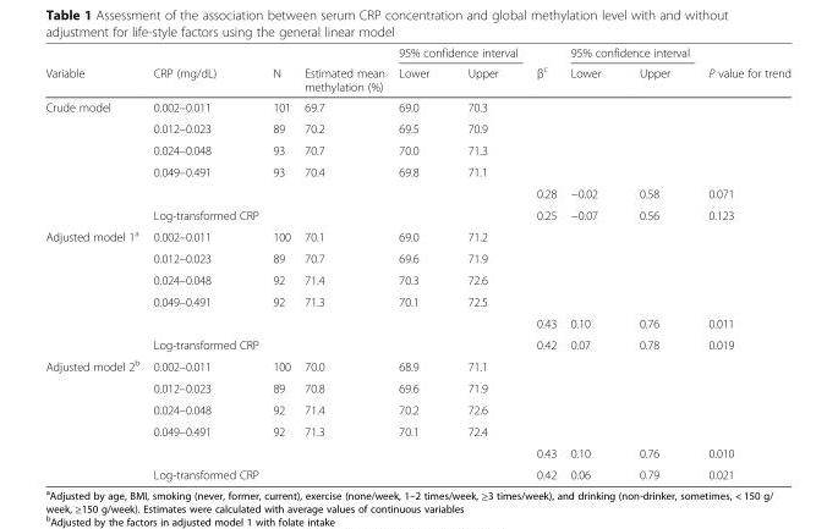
<table><thead><tr><td rowspan="2">Variable</td><td rowspan="2">CRP (mg/dL)</td><td rowspan="2">N</td><td rowspan="2">Estimated mean methylation (%)</td><td colspan="2">95% confidence interval</td><td rowspan="2">β<sup>c</sup></td><td colspan="2">95% confidence interval</td><td rowspan="2">P value for trend</td></tr><tr><td>Lower</td><td>Upper</td><td>Lower</td><td>Upper</td></tr></thead><tbody><tr><td rowspan="6">Crude model</td><td>0.002–0.011</td><td>101</td><td>69.7</td><td>69.0</td><td>70.3</td><td></td><td></td><td></td><td></td></tr><tr><td>0.012–0.023</td><td>89</td><td>70.2</td><td>69.5</td><td>70.9</td><td></td><td></td><td></td><td></td></tr><tr><td>0.024–0.048</td><td>93</td><td>70.7</td><td>70.0</td><td>71.3</td><td></td><td></td><td></td><td></td></tr><tr><td>0.049–0.491</td><td>93</td><td>70.4</td><td>69.8</td><td>71.1</td><td></td><td></td><td></td><td></td></tr><tr><td></td><td></td><td></td><td></td><td></td><td>0.28</td><td>−0.02</td><td>0.58</td><td>0.071</td></tr><tr><td>Log-transformed CRP</td><td></td><td></td><td></td><td></td><td>0.25</td><td>−0.07</td><td>0.56</td><td>0.123</td></tr><tr><td rowspan="6">Adjusted model 1<sup>a</sup></td><td>0.002–0.011</td><td>100</td><td>70.1</td><td>69.0</td><td>71.2</td><td></td><td></td><td></td><td></td></tr><tr><td>0.012–0.023</td><td>89</td><td>70.7</td><td>69.6</td><td>71.9</td><td></td><td></td><td></td><td></td></tr><tr><td>0.024–0.048</td><td>92</td><td>71.4</td><td>70.3</td><td>72.6</td><td></td><td></td><td></td><td></td></tr><tr><td>0.049–0.491</td><td>92</td><td>71.3</td><td>70.1</td><td>72.5</td><td></td><td></td><td></td><td></td></tr><tr><td></td><td></td><td></td><td></td><td></td><td>0.43</td><td>0.10</td><td>0.76</td><td>0.011</td></tr><tr><td>Log-transformed CRP</td><td></td><td></td><td></td><td></td><td>0.42</td><td>0.07</td><td>0.78</td><td>0.019</td></tr><tr><td rowspan="6">Adjusted model 2<sup>b</sup></td><td>0.002–0.011</td><td>100</td><td>70.0</td><td>68.9</td><td>71.1</td><td></td><td></td><td></td><td></td></tr><tr><td>0.012–0.023</td><td>89</td><td>70.8</td><td>69.6</td><td>71.9</td><td></td><td></td><td></td><td></td></tr><tr><td>0.024–0.048</td><td>92</td><td>71.4</td><td>70.2</td><td>72.6</td><td></td><td></td><td></td><td></td></tr><tr><td>0.049–0.491</td><td>92</td><td>71.3</td><td>70.1</td><td>72.4</td><td></td><td></td><td></td><td></td></tr><tr><td></td><td></td><td></td><td></td><td></td><td>0.43</td><td>0.10</td><td>0.76</td><td>0.010</td></tr><tr><td>Log-transformed CRP</td><td></td><td></td><td></td><td></td><td>0.42</td><td>0.06</td><td>0.79</td><td>0.021</td></tr></tbody></table>